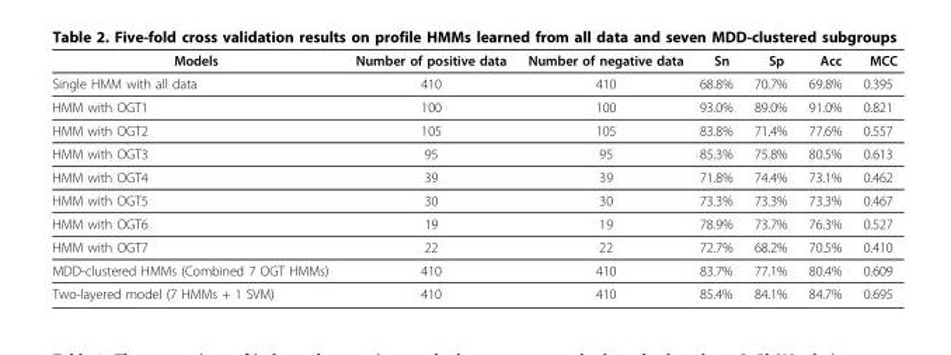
<table><thead><tr><td>Models</td><td>Number of positive data</td><td>Number of negative data</td><td>Sn</td><td>Sp</td><td>Acc</td><td>MCC</td></tr></thead><tbody><tr><td>Single HMM with all data</td><td>410</td><td>410</td><td>68.8%</td><td>70.7%</td><td>69.8%</td><td>0.395</td></tr><tr><td>HMM with OGT1</td><td>100</td><td>100</td><td>93.0%</td><td>89.0%</td><td>91.0%</td><td>0.821</td></tr><tr><td>HMM with OGT2</td><td>105</td><td>105</td><td>83.8%</td><td>71.4%</td><td>77.6%</td><td>0.557</td></tr><tr><td>HMM with OGT3</td><td>95</td><td>95</td><td>85.3%</td><td>75.8%</td><td>80.5%</td><td>0.613</td></tr><tr><td>HMM with OGT4</td><td>39</td><td>39</td><td>71.8%</td><td>74.4%</td><td>73.1%</td><td>0.462</td></tr><tr><td>HMM with OGT5</td><td>30</td><td>30</td><td>73.3%</td><td>73.3%</td><td>73.3%</td><td>0.467</td></tr><tr><td>HMM with OGT6</td><td>19</td><td>19</td><td>78.9%</td><td>73.7%</td><td>76.3%</td><td>0.527</td></tr><tr><td>HMM with OGT7</td><td>22</td><td>22</td><td>72.7%</td><td>68.2%</td><td>70.5%</td><td>0.410</td></tr><tr><td>MDD-clustered HMMs (Combined 7 OGT HMMs)</td><td>410</td><td>410</td><td>83.7%</td><td>77.1%</td><td>80.4%</td><td>0.609</td></tr><tr><td>Two-layered model (7 HMMs + 1 SVM)</td><td>410</td><td>410</td><td>85.4%</td><td>84.1%</td><td>84.7%</td><td>0.695</td></tr></tbody></table>